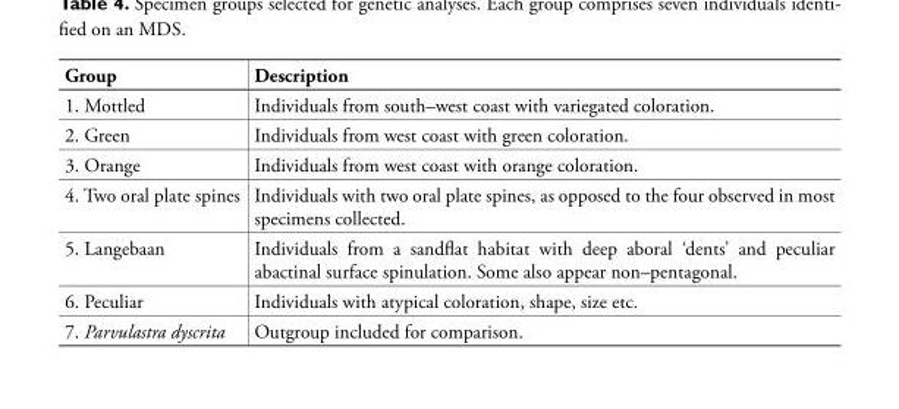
<table><tbody><tr><td>Group</td><td>Description</td></tr><tr><td>1. Mottled</td><td>Individuals from south–west coast with variegated coloration.</td></tr><tr><td>2. Green</td><td>Individuals from west coast with green coloration.</td></tr><tr><td>3. Orange</td><td>Individuals from west coast with orange coloration.</td></tr><tr><td>4. Two oral plate spines</td><td>Individuals with two oral plate spines, as opposed to the four observed in most specimens collected.</td></tr><tr><td>5. Langebaan</td><td>Individuals from a sandflat habitat with deep aboral ‘dents’ and peculiar abactinal surface spinulation. Some also appear non–pentagonal.</td></tr><tr><td>6. Peculiar</td><td>Individuals with atypical coloration, shape, size etc.</td></tr><tr><td>7. Parvulastra dyscrita</td><td>Outgroup included for comparison.</td></tr></tbody></table>